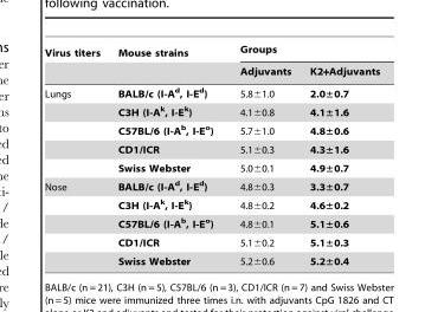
<table><thead><tr><td rowspan="2">Virus titers</td><td rowspan="2">Mouse strains</td><td colspan="2">Groups</td></tr><tr><td>Adjuvants</td><td>K2+Adjuvants</td></tr></thead><tbody><tr><td rowspan="5">Lungs</td><td>BALB/c (I-A<sup>d</sup>, I-E<sup>d</sup>)</td><td>5.8±1.0</td><td>2.0±0.7</td></tr><tr><td>C3H (I-A<sup>k</sup>, I-E<sup>k</sup>)</td><td>4.1±0.8</td><td>4.1±1.6</td></tr><tr><td>C57BL/6 (I-A<sup>b</sup>, I-E<sup>o</sup>)</td><td>5.7±1.0</td><td>4.8±0.6</td></tr><tr><td>CD1/ICR</td><td>5.1±0.3</td><td>4.3±1.6</td></tr><tr><td>Swiss Webster</td><td>5.0±0.1</td><td>4.9±0.7</td></tr><tr><td rowspan="5">Nose</td><td>BALB/c (I-A<sup>d</sup>, I-E<sup>d</sup>)</td><td>4.8±0.3</td><td>3.3±0.7</td></tr><tr><td>C3H (I-A<sup>k</sup>, I-E<sup>k</sup>)</td><td>4.8±0.2</td><td>4.6±0.2</td></tr><tr><td>C57BL/6 (I-A<sup>b</sup>, I-E<sup>o</sup>)</td><td>4.8±0.1</td><td>5.1±0.6</td></tr><tr><td>CD1/ICR</td><td>5.1±0.2</td><td>5.1±0.3</td></tr><tr><td>Swiss Webster</td><td>5.2±0.6</td><td>5.2±0.4</td></tr></tbody></table>